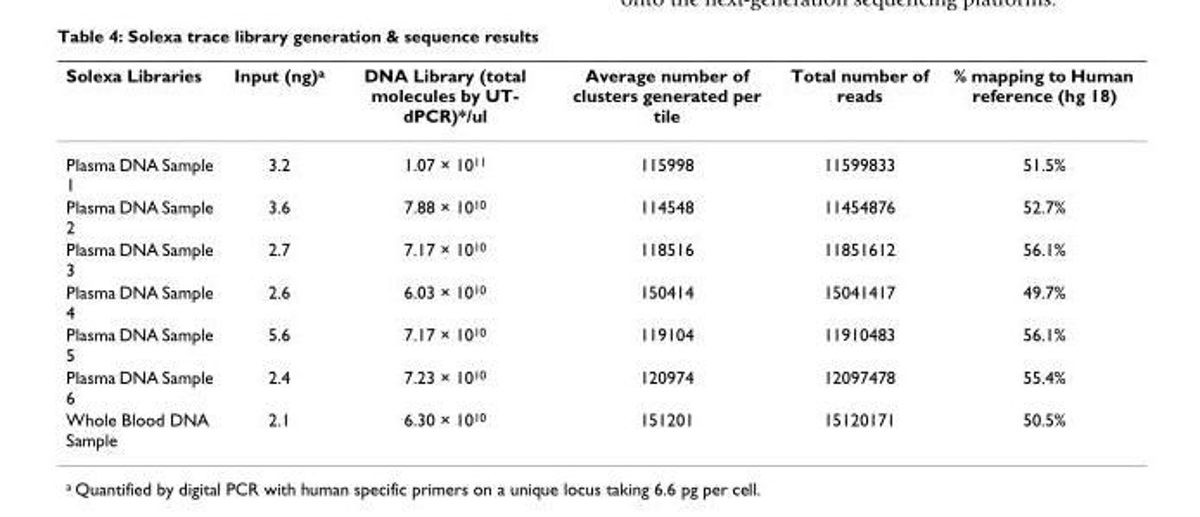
<table><thead><tr><td>Solexa Libraries</td><td>Input (ng)<sup>a</sup></td><td>DNA Library (total molecules by UT- dPCR)*/ul</td><td>Average number of clusters generated per tile</td><td>Total number of reads</td><td>% mapping to Human reference (hg 18)</td></tr></thead><tbody><tr><td>Plasma DNA Sample 1</td><td>3.2</td><td>1.07 × 10<sup>11</sup></td><td>115998</td><td>11599833</td><td>51.5%</td></tr><tr><td>Plasma DNA Sample 2</td><td>3.6</td><td>7.88 × 10<sup>10</sup></td><td>114548</td><td>11454876</td><td>52.7%</td></tr><tr><td>Plasma DNA Sample 3</td><td>2.7</td><td>7.17 × 10<sup>10</sup></td><td>118516</td><td>11851612</td><td>56.1%</td></tr><tr><td>Plasma DNA Sample 4</td><td>2.6</td><td>6.03 × 10<sup>10</sup></td><td>150414</td><td>15041417</td><td>49.7%</td></tr><tr><td>Plasma DNA Sample 5</td><td>5.6</td><td>7.17 × 10<sup>10</sup></td><td>119104</td><td>11910483</td><td>56.1%</td></tr><tr><td>Plasma DNA Sample 6</td><td>2.4</td><td>7.23 × 10<sup>10</sup></td><td>120974</td><td>12097478</td><td>55.4%</td></tr><tr><td>Whole Blood DNA Sample</td><td>2.1</td><td>6.30 × 10<sup>10</sup></td><td>151201</td><td>15120171</td><td>50.5%</td></tr></tbody></table>